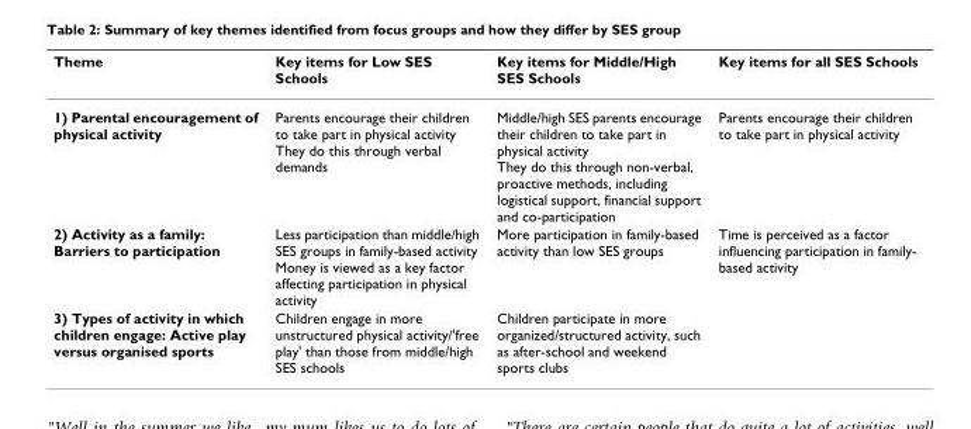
<table><thead><tr><td>Theme</td><td>Key items for Low SES Schools</td><td>Key items for Middle/High SES Schools</td><td>Key items for all SES Schools</td></tr></thead><tbody><tr><td>1) Parental encouragement of physical activity</td><td>Parents encourage their children to take part in physical activity They do this through verbal demands</td><td>Middle/high SES parents encourage their children to take part in physical activity They do this through non-verbal, proactive methods, including logistical support, financial support and co-participation</td><td>Parents encourage their children to take part in physical activity</td></tr><tr><td>2) Activity as a family: Barriers to participation</td><td>Less participation than middle/high SES groups in family-based activity Money is viewed as a key factor affecting participation in physical activity</td><td>More participation in family-based activity than low SES groups</td><td>Time is perceived as a factor influencing participation in family- based activity</td></tr><tr><td>3) Types of activity in which children engage: Active play versus organised sports</td><td>Children engage in more unstructured physical activity/&#x27;free play&#x27; than those from middle/high SES schools</td><td>Children participate in more organized/structured activity, such as after-school and weekend sports clubs</td><td></td></tr></tbody></table>